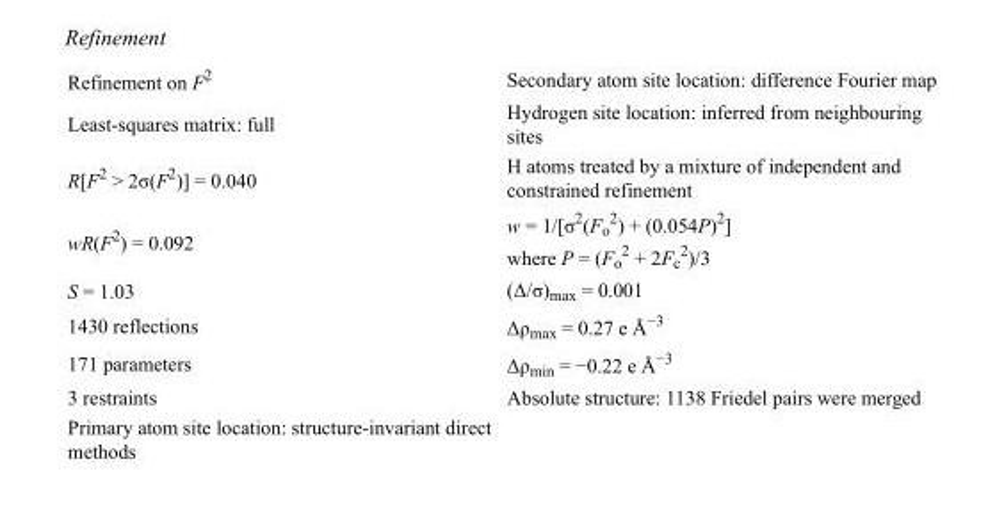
<table><tbody><tr><td>Refinement on F<sup>2</sup></td><td>Secondary atom site location: difference Fourier map</td></tr><tr><td>Least-squares matrix: full</td><td>Hydrogen site location: inferred from neighbouring sites</td></tr><tr><td>R[F<sup>2</sup> &gt; 2σ(F<sup>2</sup>)] = 0.040</td><td>H atoms treated by a mixture of independent and constrained refinement</td></tr><tr><td>wR(F<sup>2</sup>) = 0.092</td><td>w = 1/[σ<sup>2</sup>(F<sub>o</sub> <sup>2</sup>) + (0.054P)<sup>2</sup>] where P = (F<sub>o</sub> <sup>2</sup> + 2F<sub>c</sub> <sup>2</sup>)/3</td></tr><tr><td>S = 1.03</td><td>(Δ/σ)<sub>max</sub> = 0.001</td></tr><tr><td>1430 reflections</td><td>Δρ<sub>max</sub> = 0.27 e Å<sup>−3</sup></td></tr><tr><td>171 parameters</td><td>Δρ<sub>min</sub> = −0.22 e Å<sup>−3</sup></td></tr><tr><td>3 restraints</td><td>Absolute structure: 1138 Friedel pairs were merged</td></tr><tr><td>Primary atom site location: structure-invariant direct methods</td><td></td></tr></tbody></table>